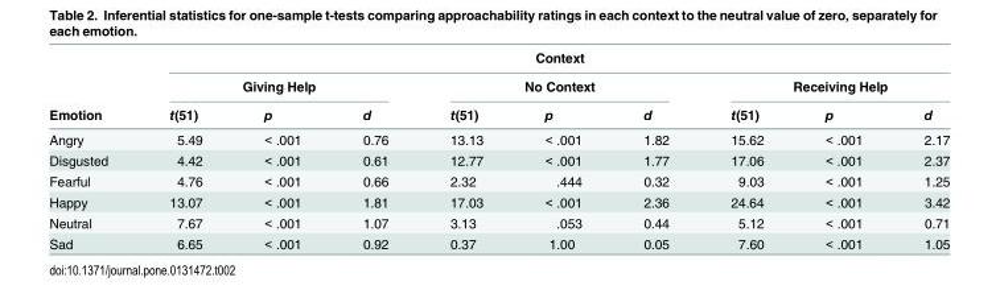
<table><thead><tr><td rowspan="3">Emotion</td><td colspan="9">Context</td></tr><tr><td colspan="3">Giving Help</td><td colspan="3">No Context</td><td colspan="3">Receiving Help</td></tr><tr><td>t(51)</td><td>p</td><td>d</td><td>t(51)</td><td>p</td><td>d</td><td>t(51)</td><td>p</td><td>d</td></tr></thead><tbody><tr><td>Angry</td><td>5.49</td><td>&lt; .001</td><td>0.76</td><td>13.13</td><td>&lt; .001</td><td>1.82</td><td>15.62</td><td>&lt; .001</td><td>2.17</td></tr><tr><td>Disgusted</td><td>4.42</td><td>&lt; .001</td><td>0.61</td><td>12.77</td><td>&lt; .001</td><td>1.77</td><td>17.06</td><td>&lt; .001</td><td>2.37</td></tr><tr><td>Fearful</td><td>4.76</td><td>&lt; .001</td><td>0.66</td><td>2.32</td><td>.444</td><td>0.32</td><td>9.03</td><td>&lt; .001</td><td>1.25</td></tr><tr><td>Happy</td><td>13.07</td><td>&lt; .001</td><td>1.81</td><td>17.03</td><td>&lt; .001</td><td>2.36</td><td>24.64</td><td>&lt; .001</td><td>3.42</td></tr><tr><td>Neutral</td><td>7.67</td><td>&lt; .001</td><td>1.07</td><td>3.13</td><td>.053</td><td>0.44</td><td>5.12</td><td>&lt; .001</td><td>0.71</td></tr><tr><td>Sad</td><td>6.65</td><td>&lt; .001</td><td>0.92</td><td>0.37</td><td>1.00</td><td>0.05</td><td>7.60</td><td>&lt; .001</td><td>1.05</td></tr></tbody></table>